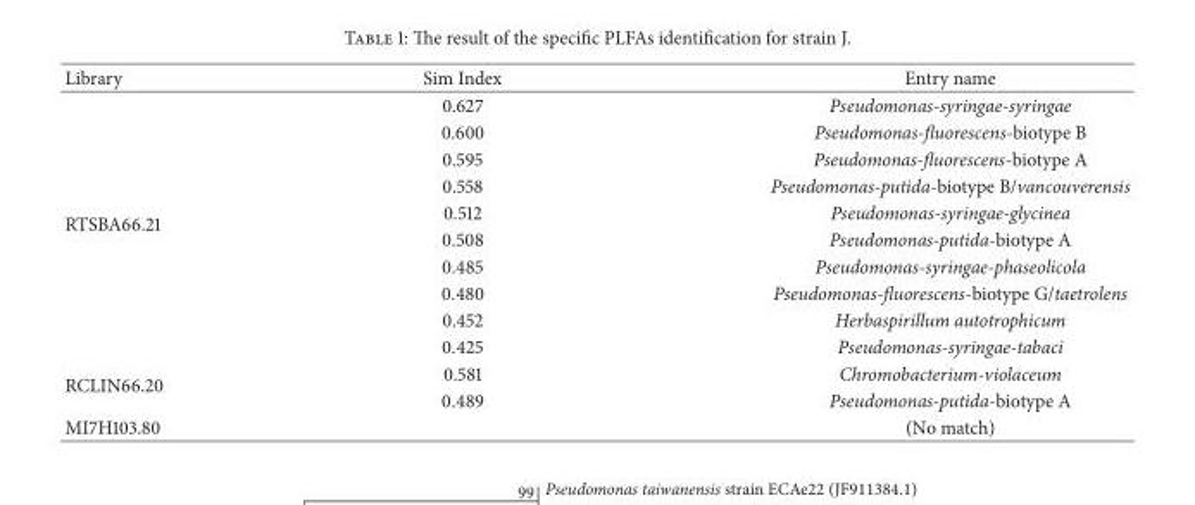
<table><thead><tr><td>Library</td><td>Sim Index</td><td>Entry name</td></tr></thead><tbody><tr><td rowspan="10">RTSBA66.21</td><td>0.627</td><td>Pseudomonas-syringae-syringae</td></tr><tr><td>0.600</td><td>Pseudomonas-fluorescens-biotype B</td></tr><tr><td>0.595</td><td>Pseudomonas-fluorescens-biotype A</td></tr><tr><td>0.558</td><td>Pseudomonas-putida-biotype B/vancouverensis</td></tr><tr><td>0.512</td><td>Pseudomonas-syringae-glycinea</td></tr><tr><td>0.508</td><td>Pseudomonas-putida-biotype A</td></tr><tr><td>0.485</td><td>Pseudomonas-syringae-phaseolicola</td></tr><tr><td>0.480</td><td>Pseudomonas-fluorescens-biotype G/taetrolens</td></tr><tr><td>0.452</td><td>Herbaspirillum autotrophicum</td></tr><tr><td>0.425</td><td>Pseudomonas-syringae-tabaci</td></tr><tr><td rowspan="2">RCLIN66.20</td><td>0.581</td><td>Chromobacterium-violaceum</td></tr><tr><td>0.489</td><td>Pseudomonas-putida-biotype A</td></tr><tr><td>MI7H103.80</td><td></td><td>(No match)</td></tr></tbody></table>